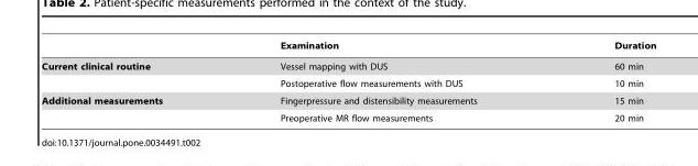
<table><thead><tr><td></td><td>Examination</td><td>Duration</td></tr></thead><tbody><tr><td rowspan="2">Current clinical routine</td><td>Vessel mapping with DUS</td><td>60 min</td></tr><tr><td>Postoperative flow measurements with DUS</td><td>10 min</td></tr><tr><td rowspan="2">Additional measurements</td><td>Fingerpressure and distensibility measurements</td><td>15 min</td></tr><tr><td>Preoperative MR flow measurements</td><td>20 min</td></tr></tbody></table>